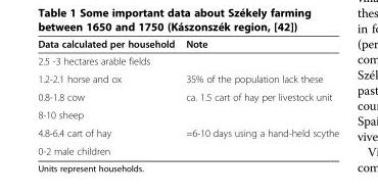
<table><thead><tr><td>Data calculated per household</td><td>Note</td></tr></thead><tbody><tr><td colspan="2">2.5 -3 hectares arable fields</td></tr><tr><td>1.2-2.1 horse and ox</td><td>35% of the population lack these</td></tr><tr><td>0.8-1.8 cow</td><td>ca. 1.5 cart of hay per livestock unit</td></tr><tr><td colspan="2">8-10 sheep</td></tr><tr><td>4.8-6.4 cart of hay</td><td>=6-10 days using a hand-held scythe</td></tr><tr><td>0-2 male children</td><td></td></tr></tbody></table>